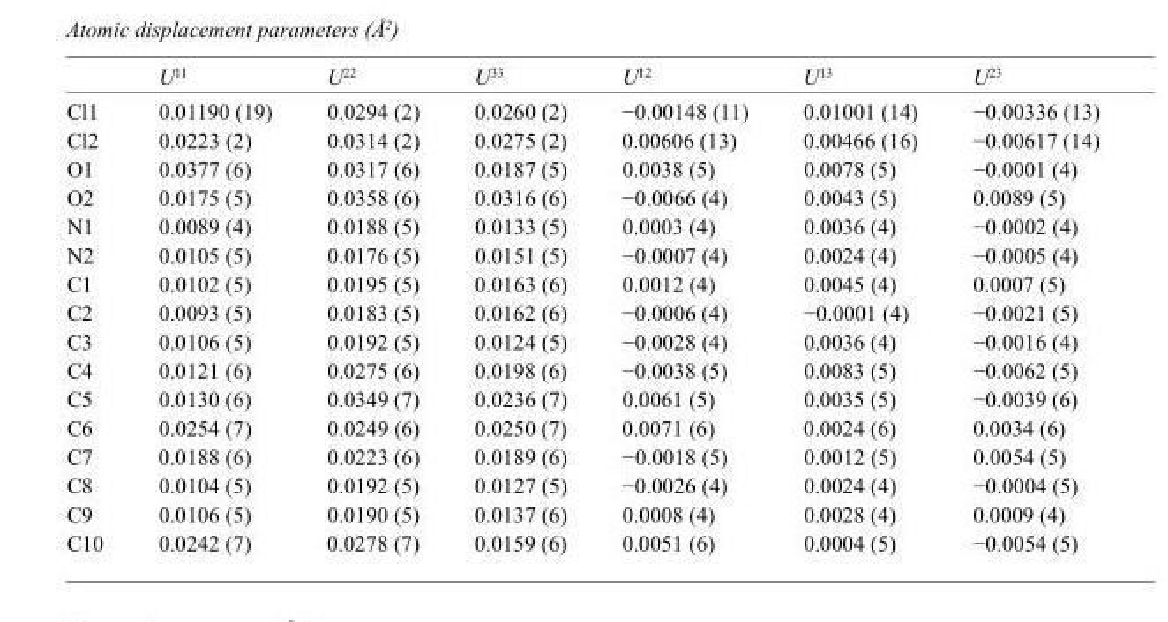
<table><thead><tr><td></td><td>U<sup>11</sup></td><td>U<sup>22</sup></td><td>U<sup>33</sup></td><td>U<sup>12</sup></td><td>U<sup>13</sup></td><td>U<sup>23</sup></td></tr></thead><tbody><tr><td>Cl1</td><td>0.01190 (19)</td><td>0.0294 (2)</td><td>0.0260 (2)</td><td>−0.00148 (11)</td><td>0.01001 (14)</td><td>−0.00336 (13)</td></tr><tr><td>Cl2</td><td>0.0223 (2)</td><td>0.0314 (2)</td><td>0.0275 (2)</td><td>0.00606 (13)</td><td>0.00466 (16)</td><td>−0.00617 (14)</td></tr><tr><td>O1</td><td>0.0377 (6)</td><td>0.0317 (6)</td><td>0.0187 (5)</td><td>0.0038 (5)</td><td>0.0078 (5)</td><td>−0.0001 (4)</td></tr><tr><td>O2</td><td>0.0175 (5)</td><td>0.0358 (6)</td><td>0.0316 (6)</td><td>−0.0066 (4)</td><td>0.0043 (5)</td><td>0.0089 (5)</td></tr><tr><td>N1</td><td>0.0089 (4)</td><td>0.0188 (5)</td><td>0.0133 (5)</td><td>0.0003 (4)</td><td>0.0036 (4)</td><td>−0.0002 (4)</td></tr><tr><td>N2</td><td>0.0105 (5)</td><td>0.0176 (5)</td><td>0.0151 (5)</td><td>−0.0007 (4)</td><td>0.0024 (4)</td><td>−0.0005 (4)</td></tr><tr><td>C1</td><td>0.0102 (5)</td><td>0.0195 (5)</td><td>0.0163 (6)</td><td>0.0012 (4)</td><td>0.0045 (4)</td><td>0.0007 (5)</td></tr><tr><td>C2</td><td>0.0093 (5)</td><td>0.0183 (5)</td><td>0.0162 (6)</td><td>−0.0006 (4)</td><td>−0.0001 (4)</td><td>−0.0021 (5)</td></tr><tr><td>C3</td><td>0.0106 (5)</td><td>0.0192 (5)</td><td>0.0124 (5)</td><td>−0.0028 (4)</td><td>0.0036 (4)</td><td>−0.0016 (4)</td></tr><tr><td>C4</td><td>0.0121 (6)</td><td>0.0275 (6)</td><td>0.0198 (6)</td><td>−0.0038 (5)</td><td>0.0083 (5)</td><td>−0.0062 (5)</td></tr><tr><td>C5</td><td>0.0130 (6)</td><td>0.0349 (7)</td><td>0.0236 (7)</td><td>0.0061 (5)</td><td>0.0035 (5)</td><td>−0.0039 (6)</td></tr><tr><td>C6</td><td>0.0254 (7)</td><td>0.0249 (6)</td><td>0.0250 (7)</td><td>0.0071 (6)</td><td>0.0024 (6)</td><td>0.0034 (6)</td></tr><tr><td>C7</td><td>0.0188 (6)</td><td>0.0223 (6)</td><td>0.0189 (6)</td><td>−0.0018 (5)</td><td>0.0012 (5)</td><td>0.0054 (5)</td></tr><tr><td>C8</td><td>0.0104 (5)</td><td>0.0192 (5)</td><td>0.0127 (5)</td><td>−0.0026 (4)</td><td>0.0024 (4)</td><td>−0.0004 (5)</td></tr><tr><td>C9</td><td>0.0106 (5)</td><td>0.0190 (5)</td><td>0.0137 (6)</td><td>0.0008 (4)</td><td>0.0028 (4)</td><td>0.0009 (4)</td></tr><tr><td>C10</td><td>0.0242 (7)</td><td>0.0278 (7)</td><td>0.0159 (6)</td><td>0.0051 (6)</td><td>0.0004 (5)</td><td>−0.0054 (5)</td></tr></tbody></table>